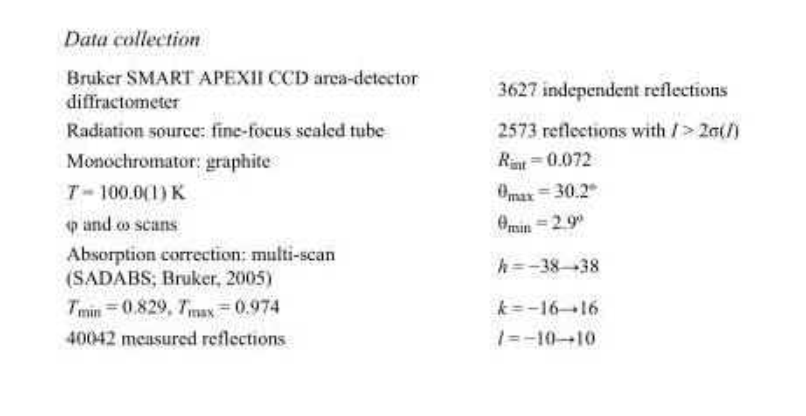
<table><tbody><tr><td>Bruker SMART APEXII CCD area-detector diffractometer</td><td>3627 independent reflections</td></tr><tr><td>Radiation source: fine-focus sealed tube</td><td>2573 reflections with I &gt; 2σ(I)</td></tr><tr><td>Monochromator: graphite</td><td>R<sub>int</sub> = 0.072</td></tr><tr><td>T = 100.0(1) K</td><td>θ<sub>max</sub> = 30.2º</td></tr><tr><td>φ and ω scans</td><td>θ<sub>min</sub> = 2.9º</td></tr><tr><td>Absorption correction: multi-scan (SADABS; Bruker, 2005)</td><td>h = −38→38</td></tr><tr><td>T<sub>min</sub> = 0.829, T<sub>max</sub> = 0.974</td><td>k = −16→16</td></tr><tr><td>40042 measured reflections</td><td>l = −10→10</td></tr></tbody></table>